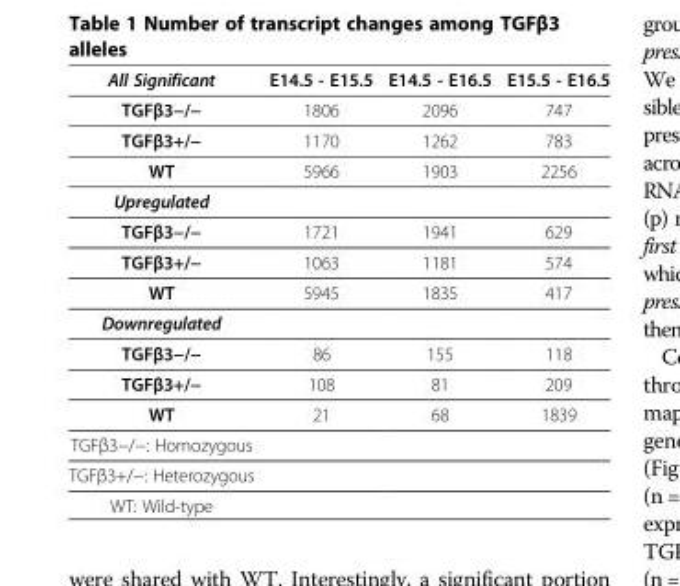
<table><thead><tr><td>All Significant</td><td>E14.5 - E15.5</td><td>E14.5 - E16.5</td><td>E15.5 - E16.5</td></tr></thead><tbody><tr><td>TGFβ3−/−</td><td>1806</td><td>2096</td><td>747</td></tr><tr><td>TGFβ3+/−</td><td>1170</td><td>1262</td><td>783</td></tr><tr><td>WT</td><td>5966</td><td>1903</td><td>2256</td></tr><tr><td colspan="4">Upregulated</td></tr><tr><td>TGFβ3−/−</td><td>1721</td><td>1941</td><td>629</td></tr><tr><td>TGFβ3+/−</td><td>1063</td><td>1181</td><td>574</td></tr><tr><td>WT</td><td>5945</td><td>1835</td><td>417</td></tr><tr><td colspan="4">Downregulated</td></tr><tr><td>TGFβ3−/−</td><td>86</td><td>155</td><td>118</td></tr><tr><td>TGFβ3+/−</td><td>108</td><td>81</td><td>209</td></tr><tr><td>WT</td><td>21</td><td>68</td><td>1839</td></tr><tr><td colspan="4">TGFβ3−/−: Homozygous</td></tr><tr><td colspan="4">TGFβ3+/−: Heterozygous</td></tr><tr><td>WT: Wild-type</td><td></td><td></td><td></td></tr></tbody></table>